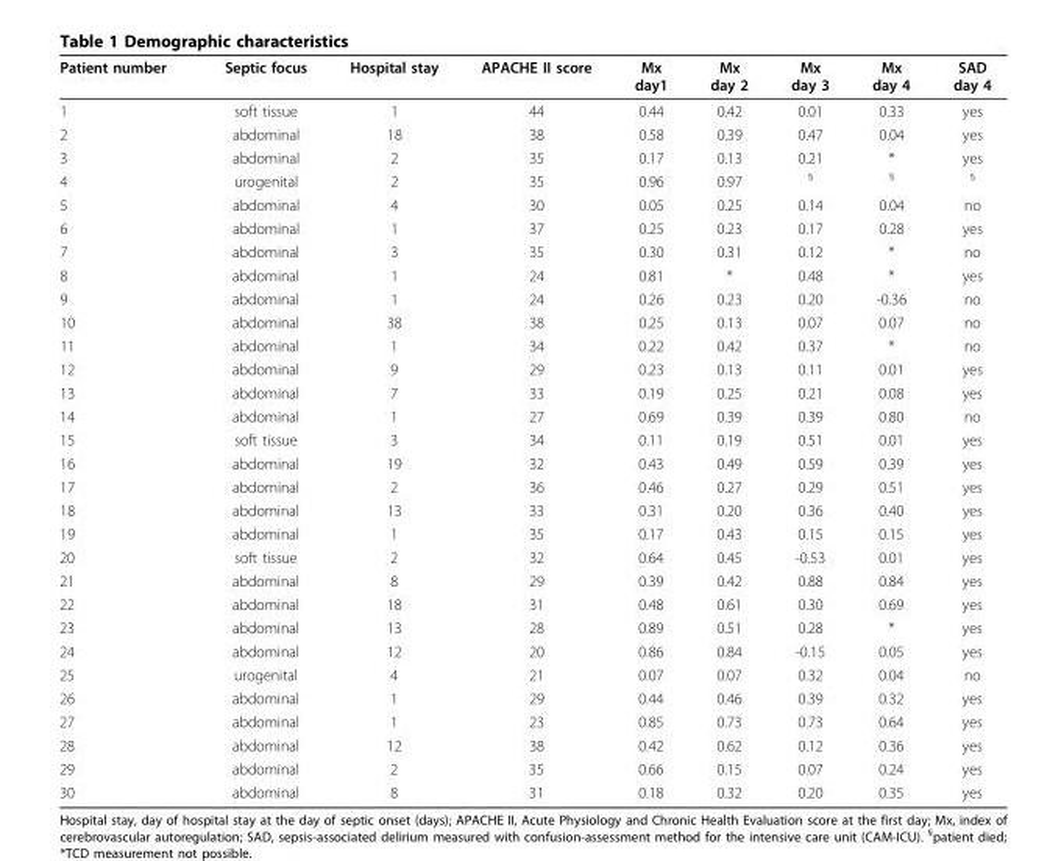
<table><thead><tr><td>Patient number</td><td>Septic focus</td><td>Hospital stay</td><td>APACHE II score</td><td>Mx day1</td><td>Mx day 2</td><td>Mx day 3</td><td>Mx day 4</td><td>SAD day 4</td></tr></thead><tbody><tr><td>1</td><td>soft tissue</td><td>1</td><td>44</td><td>0.44</td><td>0.42</td><td>0.01</td><td>0.33</td><td>yes</td></tr><tr><td>2</td><td>abdominal</td><td>18</td><td>38</td><td>0.58</td><td>0.39</td><td>0.47</td><td>0.04</td><td>yes</td></tr><tr><td>3</td><td>abdominal</td><td>2</td><td>35</td><td>0.17</td><td>0.13</td><td>0.21</td><td>*</td><td>yes</td></tr><tr><td>4</td><td>urogenital</td><td>2</td><td>35</td><td>0.96</td><td>0.97</td><td><sup>§</sup></td><td><sup>§</sup></td><td><sup>§</sup></td></tr><tr><td>5</td><td>abdominal</td><td>4</td><td>30</td><td>0.05</td><td>0.25</td><td>0.14</td><td>0.04</td><td>no</td></tr><tr><td>6</td><td>abdominal</td><td>1</td><td>37</td><td>0.25</td><td>0.23</td><td>0.17</td><td>0.28</td><td>yes</td></tr><tr><td>7</td><td>abdominal</td><td>3</td><td>35</td><td>0.30</td><td>0.31</td><td>0.12</td><td>*</td><td>no</td></tr><tr><td>8</td><td>abdominal</td><td>1</td><td>24</td><td>0.81</td><td>*</td><td>0.48</td><td>*</td><td>yes</td></tr><tr><td>9</td><td>abdominal</td><td>1</td><td>24</td><td>0.26</td><td>0.23</td><td>0.20</td><td>-0.36</td><td>no</td></tr><tr><td>10</td><td>abdominal</td><td>38</td><td>38</td><td>0.25</td><td>0.13</td><td>0.07</td><td>0.07</td><td>no</td></tr><tr><td>11</td><td>abdominal</td><td>1</td><td>34</td><td>0.22</td><td>0.42</td><td>0.37</td><td>*</td><td>no</td></tr><tr><td>12</td><td>abdominal</td><td>9</td><td>29</td><td>0.23</td><td>0.13</td><td>0.11</td><td>0.01</td><td>yes</td></tr><tr><td>13</td><td>abdominal</td><td>7</td><td>33</td><td>0.19</td><td>0.25</td><td>0.21</td><td>0.08</td><td>yes</td></tr><tr><td>14</td><td>abdominal</td><td>1</td><td>27</td><td>0.69</td><td>0.39</td><td>0.39</td><td>0.80</td><td>no</td></tr><tr><td>15</td><td>soft tissue</td><td>3</td><td>34</td><td>0.11</td><td>0.19</td><td>0.51</td><td>0.01</td><td>yes</td></tr><tr><td>16</td><td>abdominal</td><td>19</td><td>32</td><td>0.43</td><td>0.49</td><td>0.59</td><td>0.39</td><td>yes</td></tr><tr><td>17</td><td>abdominal</td><td>2</td><td>36</td><td>0.46</td><td>0.27</td><td>0.29</td><td>0.51</td><td>yes</td></tr><tr><td>18</td><td>abdominal</td><td>13</td><td>33</td><td>0.31</td><td>0.20</td><td>0.36</td><td>0.40</td><td>yes</td></tr><tr><td>19</td><td>abdominal</td><td>1</td><td>35</td><td>0.17</td><td>0.43</td><td>0.15</td><td>0.15</td><td>yes</td></tr><tr><td>20</td><td>soft tissue</td><td>2</td><td>32</td><td>0.64</td><td>0.45</td><td>-0.53</td><td>0.01</td><td>yes</td></tr><tr><td>21</td><td>abdominal</td><td>8</td><td>29</td><td>0.39</td><td>0.42</td><td>0.88</td><td>0.84</td><td>yes</td></tr><tr><td>22</td><td>abdominal</td><td>18</td><td>31</td><td>0.48</td><td>0.61</td><td>0.30</td><td>0.69</td><td>yes</td></tr><tr><td>23</td><td>abdominal</td><td>13</td><td>28</td><td>0.89</td><td>0.51</td><td>0.28</td><td>*</td><td>yes</td></tr><tr><td>24</td><td>abdominal</td><td>12</td><td>20</td><td>0.86</td><td>0.84</td><td>-0.15</td><td>0.05</td><td>yes</td></tr><tr><td>25</td><td>urogenital</td><td>4</td><td>21</td><td>0.07</td><td>0.07</td><td>0.32</td><td>0.04</td><td>no</td></tr><tr><td>26</td><td>abdominal</td><td>1</td><td>29</td><td>0.44</td><td>0.46</td><td>0.39</td><td>0.32</td><td>yes</td></tr><tr><td>27</td><td>abdominal</td><td>1</td><td>23</td><td>0.85</td><td>0.73</td><td>0.73</td><td>0.64</td><td>yes</td></tr><tr><td>28</td><td>abdominal</td><td>12</td><td>38</td><td>0.42</td><td>0.62</td><td>0.12</td><td>0.36</td><td>yes</td></tr><tr><td>29</td><td>abdominal</td><td>2</td><td>35</td><td>0.66</td><td>0.15</td><td>0.07</td><td>0.24</td><td>yes</td></tr><tr><td>30</td><td>abdominal</td><td>8</td><td>31</td><td>0.18</td><td>0.32</td><td>0.20</td><td>0.35</td><td>yes</td></tr></tbody></table>